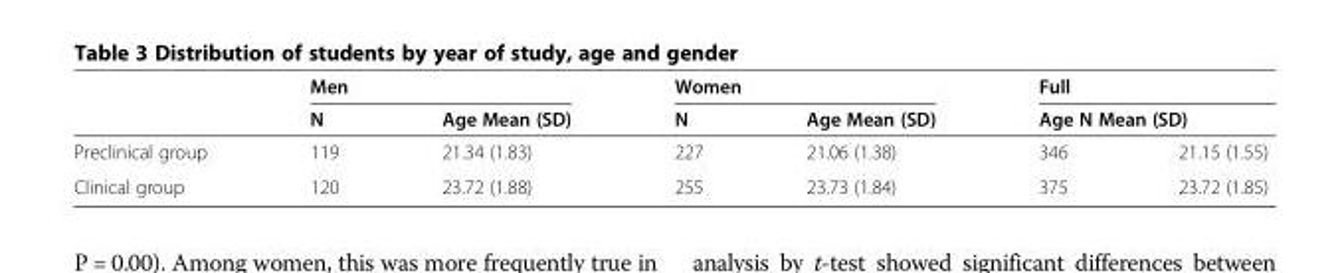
<table><thead><tr><td rowspan="3">Preclinical group</td><td colspan="2">Men</td><td colspan="2">Women</td><td rowspan="2" colspan="2">Full Age N Mean (SD)</td></tr><tr><td rowspan="2">N 119</td><td rowspan="2">Age Mean (SD) 21.34 (1.83)</td><td rowspan="2">N 227</td><td rowspan="2">Age Mean (SD) 21.06 (1.38)</td></tr><tr><td>346</td><td>21.15 (1.55)</td></tr></thead><tbody><tr><td>Clinical group</td><td>120</td><td>23.72 (1.88)</td><td>255</td><td>23.73 (1.84)</td><td>375</td><td>23.72 (1.85)</td></tr></tbody></table>